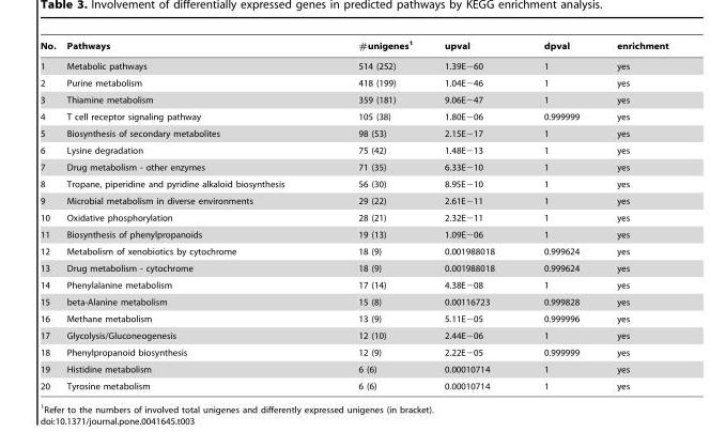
<table><thead><tr><td>No.</td><td>Pathways</td><td>#unigenes<sup>1</sup></td><td>upval</td><td>dpval</td><td>enrichment</td></tr></thead><tbody><tr><td>1</td><td>Metabolic pathways</td><td>514 (252)</td><td>1.39E−60</td><td>1</td><td>yes</td></tr><tr><td>2</td><td>Purine metabolism</td><td>418 (199)</td><td>1.04E−46</td><td>1</td><td>yes</td></tr><tr><td>3</td><td>Thiamine metabolism</td><td>359 (181)</td><td>9.06E−47</td><td>1</td><td>yes</td></tr><tr><td>4</td><td>T cell receptor signaling pathway</td><td>105 (38)</td><td>1.80E−06</td><td>0.999999</td><td>yes</td></tr><tr><td>5</td><td>Biosynthesis of secondary metabolites</td><td>98 (53)</td><td>2.15E−17</td><td>1</td><td>yes</td></tr><tr><td>6</td><td>Lysine degradation</td><td>75 (42)</td><td>1.48E−13</td><td>1</td><td>yes</td></tr><tr><td>7</td><td>Drug metabolism - other enzymes</td><td>71 (35)</td><td>6.33E−10</td><td>1</td><td>yes</td></tr><tr><td>8</td><td>Tropane, piperidine and pyridine alkaloid biosynthesis</td><td>56 (30)</td><td>8.95E−10</td><td>1</td><td>yes</td></tr><tr><td>9</td><td>Microbial metabolism in diverse environments</td><td>29 (22)</td><td>2.61E−11</td><td>1</td><td>yes</td></tr><tr><td>10</td><td>Oxidative phosphorylation</td><td>28 (21)</td><td>2.32E−11</td><td>1</td><td>yes</td></tr><tr><td>11</td><td>Biosynthesis of phenylpropanoids</td><td>19 (13)</td><td>1.09E−06</td><td>1</td><td>yes</td></tr><tr><td>12</td><td>Metabolism of xenobiotics by cytochrome</td><td>18 (9)</td><td>0.001988018</td><td>0.999624</td><td>yes</td></tr><tr><td>13</td><td>Drug metabolism - cytochrome</td><td>18 (9)</td><td>0.001988018</td><td>0.999624</td><td>yes</td></tr><tr><td>14</td><td>Phenylalanine metabolism</td><td>17 (14)</td><td>4.38E−08</td><td>1</td><td>yes</td></tr><tr><td>15</td><td>beta-Alanine metabolism</td><td>15 (8)</td><td>0.00116723</td><td>0.999828</td><td>yes</td></tr><tr><td>16</td><td>Methane metabolism</td><td>13 (9)</td><td>5.11E−05</td><td>0.999996</td><td>yes</td></tr><tr><td>17</td><td>Glycolysis/Gluconeogenesis</td><td>12 (10)</td><td>2.44E−06</td><td>1</td><td>yes</td></tr><tr><td>18</td><td>Phenylpropanoid biosynthesis</td><td>12 (9)</td><td>2.22E−05</td><td>0.999999</td><td>yes</td></tr><tr><td>19</td><td>Histidine metabolism</td><td>6 (6)</td><td>0.00010714</td><td>1</td><td>yes</td></tr><tr><td>20</td><td>Tyrosine metabolism</td><td>6 (6)</td><td>0.00010714</td><td>1</td><td>yes</td></tr></tbody></table>